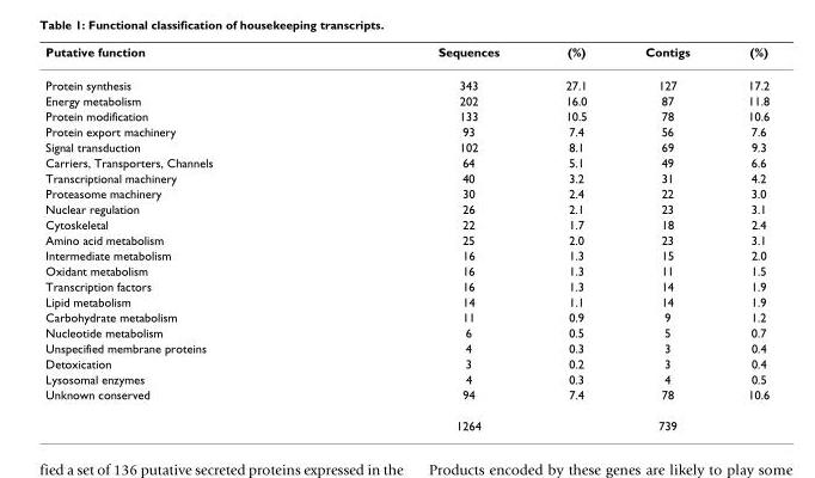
<table><thead><tr><td>Putative function</td><td>Sequences</td><td>(%)</td><td>Contigs</td><td>(%)</td></tr></thead><tbody><tr><td>Protein synthesis</td><td>343</td><td>27.1</td><td>127</td><td>17.2</td></tr><tr><td>Energy metabolism</td><td>202</td><td>16.0</td><td>87</td><td>11.8</td></tr><tr><td>Protein modification</td><td>133</td><td>10.5</td><td>78</td><td>10.6</td></tr><tr><td>Protein export machinery</td><td>93</td><td>7.4</td><td>56</td><td>7.6</td></tr><tr><td>Signal transduction</td><td>102</td><td>8.1</td><td>69</td><td>9.3</td></tr><tr><td>Carriers, Transporters, Channels</td><td>64</td><td>5.1</td><td>49</td><td>6.6</td></tr><tr><td>Transcriptional machinery</td><td>40</td><td>3.2</td><td>31</td><td>4.2</td></tr><tr><td>Proteasome machinery</td><td>30</td><td>2.4</td><td>22</td><td>3.0</td></tr><tr><td>Nuclear regulation</td><td>26</td><td>2.1</td><td>23</td><td>3.1</td></tr><tr><td>Cytoskeletal</td><td>22</td><td>1.7</td><td>18</td><td>2.4</td></tr><tr><td>Amino acid metabolism</td><td>25</td><td>2.0</td><td>23</td><td>3.1</td></tr><tr><td>Intermediate metabolism</td><td>16</td><td>1.3</td><td>15</td><td>2.0</td></tr><tr><td>Oxidant metabolism</td><td>16</td><td>1.3</td><td>11</td><td>1.5</td></tr><tr><td>Transcription factors</td><td>16</td><td>1.3</td><td>14</td><td>1.9</td></tr><tr><td>Lipid metabolism</td><td>14</td><td>1.1</td><td>14</td><td>1.9</td></tr><tr><td>Carbohydrate metabolism</td><td>11</td><td>0.9</td><td>9</td><td>1.2</td></tr><tr><td>Nucleotide metabolism</td><td>6</td><td>0.5</td><td>5</td><td>0.7</td></tr><tr><td>Unspecified membrane proteins</td><td>4</td><td>0.3</td><td>3</td><td>0.4</td></tr><tr><td>Detoxication</td><td>3</td><td>0.2</td><td>3</td><td>0.4</td></tr><tr><td>Lysosomal enzymes</td><td>4</td><td>0.3</td><td>4</td><td>0.5</td></tr><tr><td rowspan="2">Unknown conserved</td><td>94</td><td>7.4</td><td>78</td><td>10.6</td></tr><tr><td>1264</td><td></td><td>739</td><td></td></tr></tbody></table>